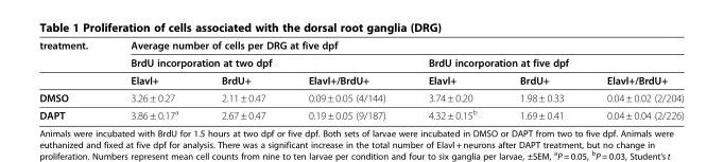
<table><thead><tr><td rowspan="3">treatment.</td><td colspan="6">Average number of cells per DRG at five dpf</td></tr><tr><td colspan="3">BrdU incorporation at two dpf</td><td colspan="3">BrdU incorporation at five dpf</td></tr><tr><td>Elavl+</td><td>BrdU+</td><td>Elavl+/BrdU+</td><td>Elavl+</td><td>BrdU+</td><td>Elavl+/BrdU+</td></tr></thead><tbody><tr><td>DMSO</td><td>3.26 ± 0.27</td><td>2.11 ± 0.47</td><td>0.09 ± 0.05 (4/144)</td><td>3.74 ± 0.20</td><td>1.98 ± 0.33</td><td>0.04 ± 0.02 (2/204)</td></tr><tr><td>DAPT</td><td>3.86 ± 0.17<sup>a</sup></td><td>2.67 ± 0.47</td><td>0.19 ± 0.05 (9/187)</td><td>4.32 ± 0.15<sup>b</sup></td><td>1.69 ± 0.41</td><td>0.04 ± 0.04 (2/226)</td></tr></tbody></table>